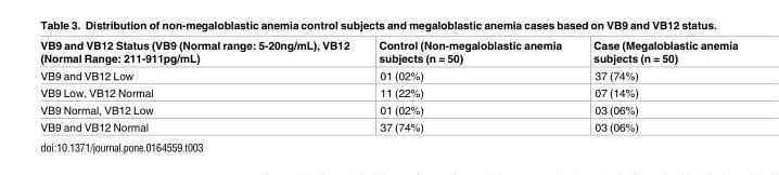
<table><thead><tr><td>VB9 and VB12 Status (VB9 (Normal range: 5-20ng/mL), VB12 (Normal Range: 211-911pg/mL)</td><td>Control (Non-megaloblastic anemia subjects (n = 50)</td><td>Case (Megaloblastic anemia subjects (n = 50)</td></tr></thead><tbody><tr><td>VB9 and VB12 Low</td><td>01 (02%)</td><td>37 (74%)</td></tr><tr><td>VB9 Low, VB12 Normal</td><td>11 (22%)</td><td>07 (14%)</td></tr><tr><td>VB9 Normal, VB12 Low</td><td>01 (02%)</td><td>03 (06%)</td></tr><tr><td>VB9 and VB12 Normal</td><td>37 (74%)</td><td>03 (06%)</td></tr></tbody></table>